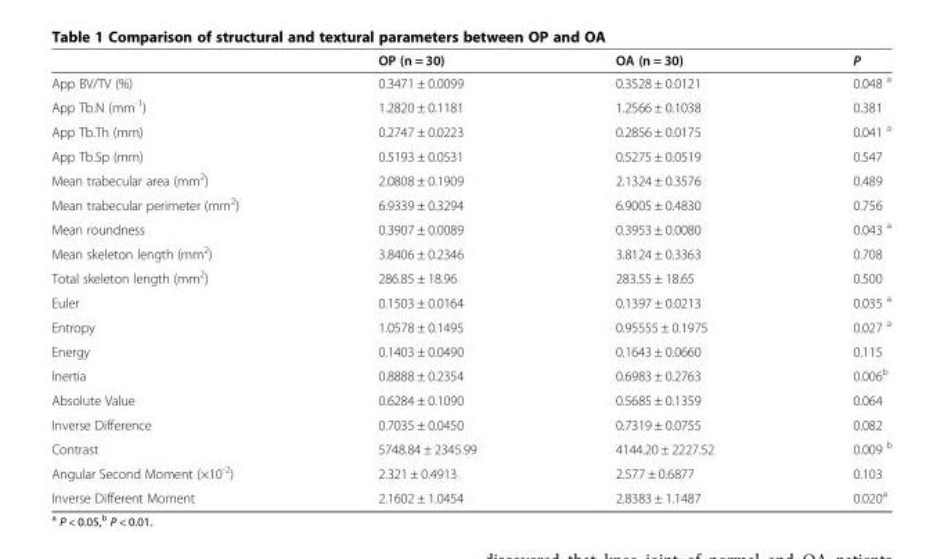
<table><thead><tr><td></td><td>OP (n = 30)</td><td>OA (n = 30)</td><td>P</td></tr></thead><tbody><tr><td>App BV/TV (%)</td><td>0.3471 ± 0.0099</td><td>0.3528 ± 0.0121</td><td>0.048 <sup>a</sup></td></tr><tr><td>App Tb.N (mm<sup>-1</sup>)</td><td>1.2820 ± 0.1181</td><td>1.2566 ± 0.1038</td><td>0.381</td></tr><tr><td>App Tb.Th (mm)</td><td>0.2747 ± 0.0223</td><td>0.2856 ± 0.0175</td><td>0.041 <sup>a</sup></td></tr><tr><td>App Tb.Sp (mm)</td><td>0.5193 ± 0.0531</td><td>0.5275 ± 0.0519</td><td>0.547</td></tr><tr><td>Mean trabecular area (mm<sup>2</sup>)</td><td>2.0808 ± 0.1909</td><td>2.1324 ± 0.3576</td><td>0.489</td></tr><tr><td>Mean trabecular perimeter (mm<sup>2</sup>)</td><td>6.9339 ± 0.3294</td><td>6.9005 ± 0.4830</td><td>0.756</td></tr><tr><td>Mean roundness</td><td>0.3907 ± 0.0089</td><td>0.3953 ± 0.0080</td><td>0.043 <sup>a</sup></td></tr><tr><td>Mean skeleton length (mm<sup>2</sup>)</td><td>3.8406 ± 0.2346</td><td>3.8124 ± 0.3363</td><td>0.708</td></tr><tr><td>Total skeleton length (mm<sup>2</sup>)</td><td>286.85 ± 18.96</td><td>283.55 ± 18.65</td><td>0.500</td></tr><tr><td>Euler</td><td>0.1503 ± 0.0164</td><td>0.1397 ± 0.0213</td><td>0.035 <sup>a</sup></td></tr><tr><td>Entropy</td><td>1.0578 ± 0.1495</td><td>0.95555 ± 0.1975</td><td>0.027 <sup>a</sup></td></tr><tr><td>Energy</td><td>0.1403 ± 0.0490</td><td>0.1643 ± 0.0660</td><td>0.115</td></tr><tr><td>Inertia</td><td>0.8888 ± 0.2354</td><td>0.6983 ± 0.2763</td><td>0.006<sup>b</sup></td></tr><tr><td>Absolute Value</td><td>0.6284 ± 0.1090</td><td>0.5685 ± 0.1359</td><td>0.064</td></tr><tr><td>Inverse Difference</td><td>0.7035 ± 0.0450</td><td>0.7319 ± 0.0755</td><td>0.082</td></tr><tr><td>Contrast</td><td>5748.84 ± 2345.99</td><td>4144.20 ± 2227.52</td><td>0.009 <sup>b</sup></td></tr><tr><td>Angular Second Moment (×10<sup>-2</sup>)</td><td>2.321 ± 0.4913</td><td>2.577 ± 0.6877</td><td>0.103</td></tr><tr><td>Inverse Different Moment</td><td>2.1602 ± 1.0454</td><td>2.8383 ± 1.1487</td><td>0.020<sup>a</sup></td></tr></tbody></table>